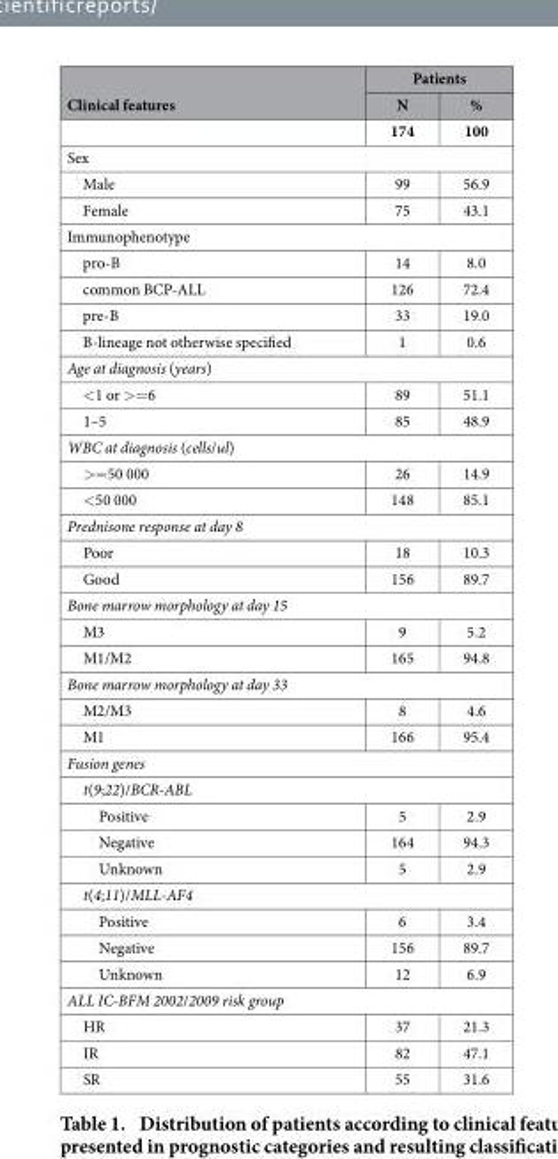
<table><thead><tr><td rowspan="2">Clinical features</td><td colspan="2">Patients</td></tr><tr><td>N</td><td>%</td></tr></thead><tbody><tr><td></td><td>174</td><td>100</td></tr><tr><td colspan="3">Sex</td></tr><tr><td>Male</td><td>99</td><td>56.9</td></tr><tr><td>Female</td><td>75</td><td>43.1</td></tr><tr><td colspan="3">Immunophenotype</td></tr><tr><td>pro-B</td><td>14</td><td>8.0</td></tr><tr><td>common BCP-ALL</td><td>126</td><td>72.4</td></tr><tr><td>pre-B</td><td>33</td><td>19.0</td></tr><tr><td>B-lineage not otherwise specified</td><td>1</td><td>0.6</td></tr><tr><td colspan="3">Age at diagnosis (years)</td></tr><tr><td>&lt; 1 or &gt; = 6</td><td>89</td><td>51.1</td></tr><tr><td>1–5</td><td>85</td><td>48.9</td></tr><tr><td colspan="3">WBC at diagnosis (cells/ul)</td></tr><tr><td>&gt; = 50 000</td><td>26</td><td>14.9</td></tr><tr><td>&lt; 50 000</td><td>148</td><td>85.1</td></tr><tr><td colspan="3">Prednisone response at day 8</td></tr><tr><td>Poor</td><td>18</td><td>10.3</td></tr><tr><td>Good</td><td>156</td><td>89.7</td></tr><tr><td colspan="3">Bone marrow morphology at day 15</td></tr><tr><td>M3</td><td>9</td><td>5.2</td></tr><tr><td>M1/M2</td><td>165</td><td>94.8</td></tr><tr><td colspan="3">Bone marrow morphology at day 33</td></tr><tr><td>M2/M3</td><td>8</td><td>4.6</td></tr><tr><td>M1</td><td>166</td><td>95.4</td></tr><tr><td colspan="3">Fusion genes</td></tr><tr><td colspan="3">t(9;22)/BCR-ABL</td></tr><tr><td>Positive</td><td>5</td><td>2.9</td></tr><tr><td>Negative</td><td>164</td><td>94.3</td></tr><tr><td>Unknown</td><td>5</td><td>2.9</td></tr><tr><td colspan="3">t(4;11)/MLL-AF4</td></tr><tr><td>Positive</td><td>6</td><td>3.4</td></tr><tr><td>Negative</td><td>156</td><td>89.7</td></tr><tr><td>Unknown</td><td>12</td><td>6.9</td></tr><tr><td colspan="3">ALL IC-BFM 2002/2009 risk group</td></tr><tr><td>HR</td><td>37</td><td>21.3</td></tr><tr><td>IR</td><td>82</td><td>47.1</td></tr><tr><td>SR</td><td>55</td><td>31.6</td></tr></tbody></table>